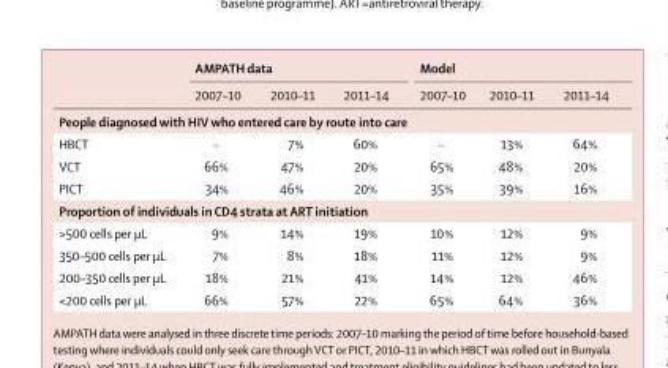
<table><thead><tr><td rowspan="2"></td><td colspan="3">AMPATH data</td><td colspan="3">Model</td></tr><tr><td>2007–10</td><td>2010–11</td><td>2011–14</td><td>2007–10</td><td>2010–11</td><td>2011–14</td></tr></thead><tbody><tr><td colspan="7">People diagnosed with HIV who entered care by route into care</td></tr><tr><td>HBCT</td><td>··</td><td>7%</td><td>60%</td><td>··</td><td>13%</td><td>64%</td></tr><tr><td>VCT</td><td>66%</td><td>47%</td><td>20%</td><td>65%</td><td>48%</td><td>20%</td></tr><tr><td>PICT</td><td>34%</td><td>46%</td><td>20%</td><td>35%</td><td>39%</td><td>16%</td></tr><tr><td colspan="7">Proportion of individuals in CD4 strata at ART initiation</td></tr><tr><td>&gt;500 cells per μL</td><td>9%</td><td>14%</td><td>19%</td><td>10%</td><td>12%</td><td>9%</td></tr><tr><td>350–500 cells per μL</td><td>7%</td><td>8%</td><td>18%</td><td>11%</td><td>12%</td><td>9%</td></tr><tr><td>200–350 cells per μL</td><td>18%</td><td>21%</td><td>41%</td><td>14%</td><td>12%</td><td>46%</td></tr><tr><td>&lt;200 cells per μL</td><td>66%</td><td>57%</td><td>22%</td><td>65%</td><td>64%</td><td>36%</td></tr></tbody></table>